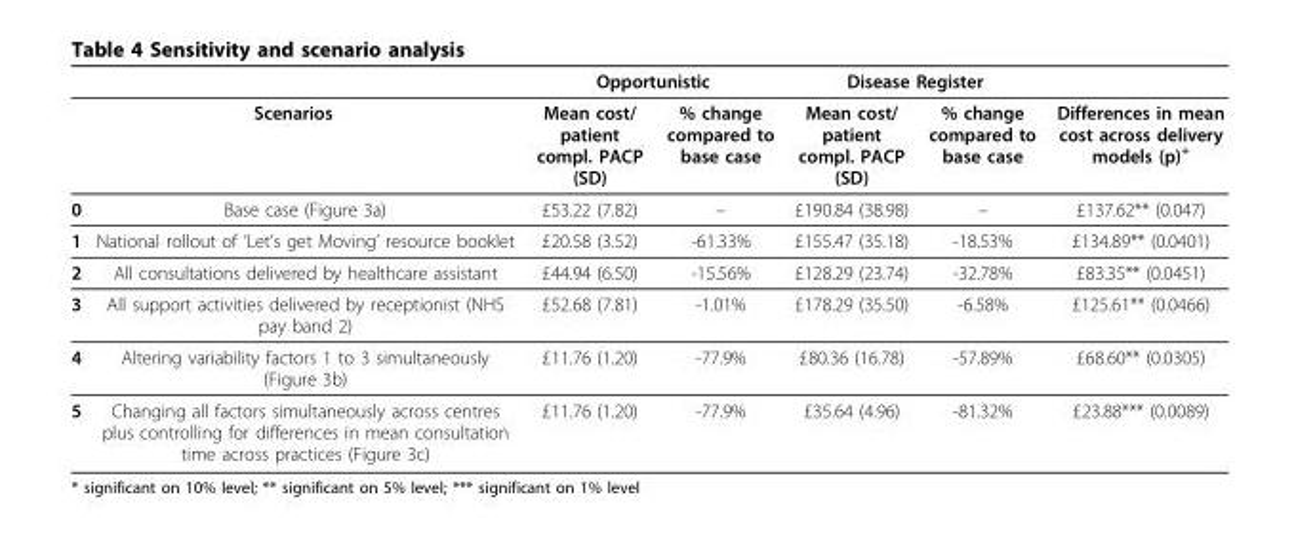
<table><thead><tr><td></td><td></td><td colspan="2">Opportunistic</td><td colspan="2">Disease Register</td><td rowspan="2">Differences in mean cost across delivery models (p)+</td></tr><tr><td colspan="2">Scenarios</td><td>Mean cost/ patient compl. PACP (SD)</td><td>% change compared to base case</td><td>Mean cost/ patient compl. PACP (SD)</td><td>% change compared to base case</td></tr></thead><tbody><tr><td>0</td><td>Base case (Figure 3a)</td><td>£53.22 (7.82)</td><td>–</td><td>£190.84 (38.98)</td><td>–</td><td>£137.62** (0.047)</td></tr><tr><td>1</td><td>National rollout of ‘Let’s get Moving’ resource booklet</td><td>£20.58 (3.52)</td><td>-61.33%</td><td>£155.47 (35.18)</td><td>-18.53%</td><td>£134.89** (0.0401)</td></tr><tr><td>2</td><td>All consultations delivered by healthcare assistant</td><td>£44.94 (6.50)</td><td>-15.56%</td><td>£128.29 (23.74)</td><td>-32.78%</td><td>£83.35** (0.0451)</td></tr><tr><td>3</td><td>All support activities delivered by receptionist (NHS pay band 2)</td><td>£52.68 (7.81)</td><td>-1.01%</td><td>£178.29 (35.50)</td><td>-6.58%</td><td>£125.61** (0.0466)</td></tr><tr><td>4</td><td>Altering variability factors 1 to 3 simultaneously (Figure 3b)</td><td>£11.76 (1.20)</td><td>-77.9%</td><td>£80.36 (16.78)</td><td>-57.89%</td><td>£68.60** (0.0305)</td></tr><tr><td>5</td><td>Changing all factors simultaneously across centres plus controlling for differences in mean consultation time across practices (Figure 3c)</td><td>£11.76 (1.20)</td><td>-77.9%</td><td>£35.64 (4.96)</td><td>-81.32%</td><td>£23.88*** (0.0089)</td></tr></tbody></table>